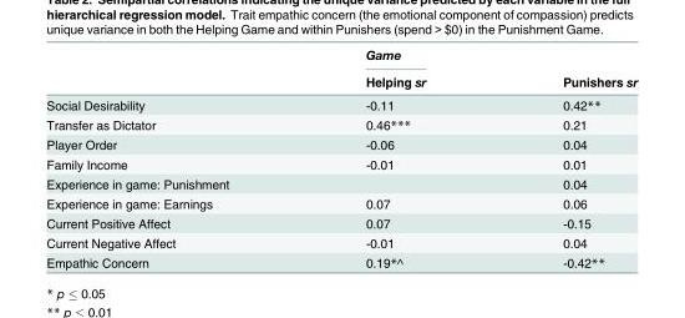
<table><thead><tr><td rowspan="2"></td><td rowspan="2">Game Helping sr</td><td rowspan="2">Punishers sr</td></tr><tr></tr></thead><tbody><tr><td>Social Desirability</td><td>-0.11</td><td>0.42**</td></tr><tr><td>Transfer as Dictator</td><td>0.46***</td><td>0.21</td></tr><tr><td>Player Order</td><td>-0.06</td><td>0.04</td></tr><tr><td>Family Income</td><td>-0.01</td><td>0.01</td></tr><tr><td>Experience in game: Punishment</td><td></td><td>0.04</td></tr><tr><td>Experience in game: Earnings</td><td>0.07</td><td>0.06</td></tr><tr><td>Current Positive Affect</td><td>0.07</td><td>-0.15</td></tr><tr><td>Current Negative Affect</td><td>-0.01</td><td>0.04</td></tr><tr><td>Empathic Concern</td><td>0.19*^</td><td>-0.42**</td></tr></tbody></table>